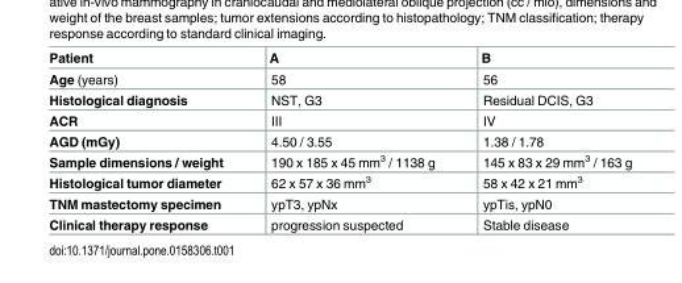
<table><thead><tr><td>Patient</td><td>A</td><td>B</td></tr></thead><tbody><tr><td>Age (years)</td><td>58</td><td>56</td></tr><tr><td>Histological diagnosis</td><td>NST, G3</td><td>Residual DCIS, G3</td></tr><tr><td>ACR</td><td>III</td><td>IV</td></tr><tr><td>AGD (mGy)</td><td>4.50 / 3.55</td><td>1.38 / 1.78</td></tr><tr><td>Sample dimensions / weight</td><td>190 x 185 x 45 mm<sup>3</sup> / 1138 g</td><td>145 x 83 x 29 mm<sup>3</sup> / 163 g</td></tr><tr><td>Histological tumor diameter</td><td>62 x 57 x 36 mm<sup>3</sup></td><td>58 x 42 x 21 mm<sup>3</sup></td></tr><tr><td>TNM mastectomy specimen</td><td>ypT3, ypNx</td><td>ypTis, ypN0</td></tr><tr><td>Clinical therapy response</td><td>progression suspected</td><td>Stable disease</td></tr></tbody></table>